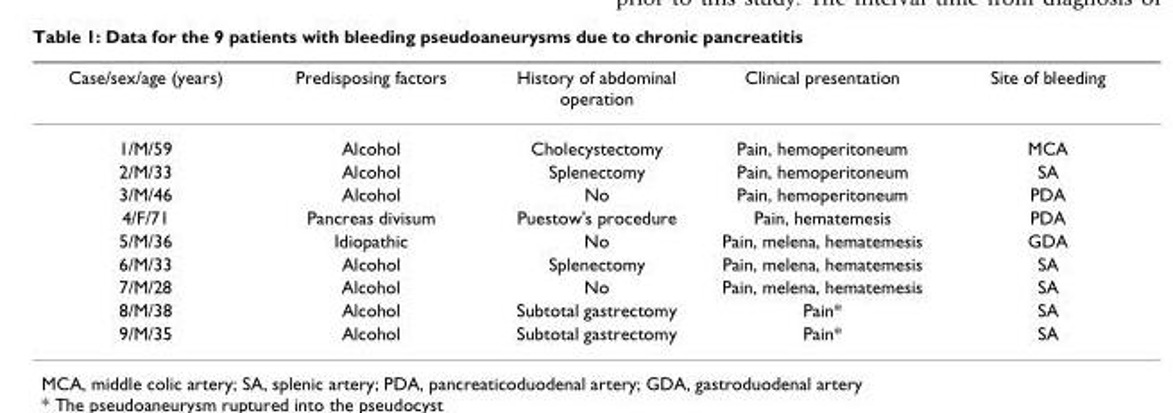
<table><thead><tr><td>Case/sex/age (years)</td><td>Predisposing factors</td><td>History of abdominal operation</td><td>Clinical presentation</td><td>Site of bleeding</td></tr></thead><tbody><tr><td>1/M/59</td><td>Alcohol</td><td>Cholecystectomy</td><td>Pain, hemoperitoneum</td><td>MCA</td></tr><tr><td>2/M/33</td><td>Alcohol</td><td>Splenectomy</td><td>Pain, hemoperitoneum</td><td>SA</td></tr><tr><td>3/M/46</td><td>Alcohol</td><td>No</td><td>Pain, hemoperitoneum</td><td>PDA</td></tr><tr><td>4/F/71</td><td>Pancreas divisum</td><td>Puestow&#x27;s procedure</td><td>Pain, hematemesis</td><td>PDA</td></tr><tr><td>5/M/36</td><td>Idiopathic</td><td>No</td><td>Pain, melena, hematemesis</td><td>GDA</td></tr><tr><td>6/M/33</td><td>Alcohol</td><td>Splenectomy</td><td>Pain, melena, hematemesis</td><td>SA</td></tr><tr><td>7/M/28</td><td>Alcohol</td><td>No</td><td>Pain, melena, hematemesis</td><td>SA</td></tr><tr><td>8/M/38</td><td>Alcohol</td><td>Subtotal gastrectomy</td><td>Pain*</td><td>SA</td></tr><tr><td>9/M/35</td><td>Alcohol</td><td>Subtotal gastrectomy</td><td>Pain*</td><td>SA</td></tr></tbody></table>